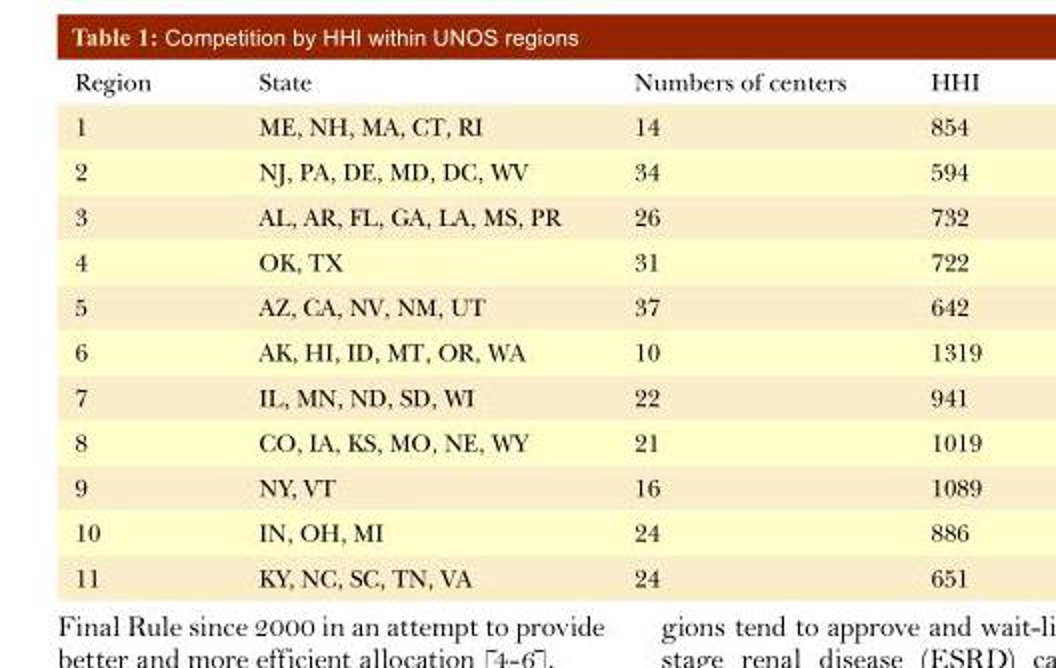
<table><thead><tr><td>Region</td><td>State</td><td>Numbers of centers</td><td>HHI</td></tr></thead><tbody><tr><td>1</td><td>ME, NH, MA, CT, RI</td><td>14</td><td>854</td></tr><tr><td>2</td><td>NJ, PA, DE, MD, DC, WV</td><td>34</td><td>594</td></tr><tr><td>3</td><td>AL, AR, FL, GA, LA, MS, PR</td><td>26</td><td>732</td></tr><tr><td>4</td><td>OK, TX</td><td>31</td><td>722</td></tr><tr><td>5</td><td>AZ, CA, NV, NM, UT</td><td>37</td><td>642</td></tr><tr><td>6</td><td>AK, HI, ID, MT, OR, WA</td><td>10</td><td>1319</td></tr><tr><td>7</td><td>IL, MN, ND, SD, WI</td><td>22</td><td>941</td></tr><tr><td>8</td><td>CO, IA, KS, MO, NE, WY</td><td>21</td><td>1019</td></tr><tr><td>9</td><td>NY, VT</td><td>16</td><td>1089</td></tr><tr><td>10</td><td>IN, OH, MI</td><td>24</td><td>886</td></tr><tr><td>11</td><td>KY, NC, SC, TN, VA</td><td>24</td><td>651</td></tr></tbody></table>